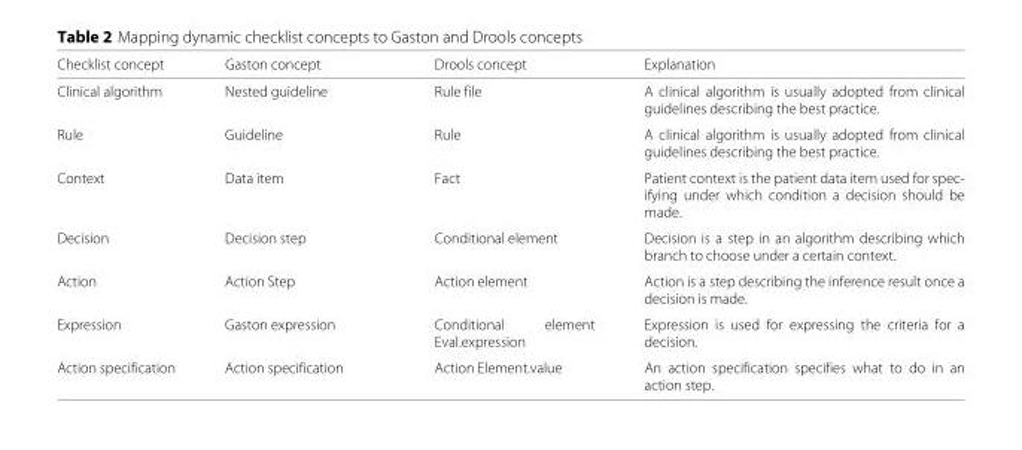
<table><thead><tr><td>Checklist concept</td><td>Gaston concept</td><td>Drools concept</td><td>Explanation</td></tr></thead><tbody><tr><td>Clinical algorithm</td><td>Nested guideline</td><td>Rule file</td><td>A clinical algorithm is usually adopted from clinical guidelines describing the best practice.</td></tr><tr><td>Rule</td><td>Guideline</td><td>Rule</td><td>A clinical algorithm is usually adopted from clinical guidelines describing the best practice.</td></tr><tr><td>Context</td><td>Data item</td><td>Fact</td><td>Patient context is the patient data item used for spec- ifying under which condition a decision should be made.</td></tr><tr><td>Decision</td><td>Decision step</td><td>Conditional element</td><td>Decision is a step in an algorithm describing which branch to choose under a certain context.</td></tr><tr><td>Action</td><td>Action Step</td><td>Action element</td><td>Action is a step describing the inference result once a decision is made.</td></tr><tr><td>Expression</td><td>Gaston expression</td><td>Conditional element Eval.expression</td><td>Expression is used for expressing the criteria for a decision.</td></tr><tr><td>Action specification</td><td>Action specification</td><td>Action Element.value</td><td>An action specification specifies what to do in an action step.</td></tr></tbody></table>